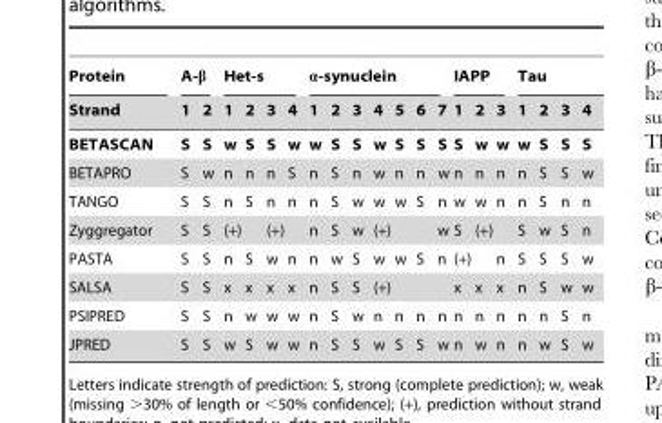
<table><thead><tr><td rowspan="2">Protein Strand</td><td colspan="2">A-β</td><td colspan="4">Het-s</td><td colspan="7">α-synuclein</td><td colspan="3">IAPP</td><td colspan="4">Tau</td></tr><tr><td>1</td><td>2</td><td>1</td><td>2</td><td>3</td><td>4</td><td>1</td><td>2</td><td>3</td><td>4</td><td>5</td><td>6</td><td>7</td><td>1</td><td>2</td><td>3</td><td>1</td><td>2</td><td>3</td><td>4</td></tr></thead><tbody><tr><td>BETASCAN</td><td>S</td><td>S</td><td>w</td><td>S</td><td>S</td><td>w</td><td>w</td><td>S</td><td>S</td><td>w</td><td>S</td><td>S</td><td>S</td><td>S</td><td>w</td><td>w</td><td>w</td><td>S</td><td>S</td><td>S</td></tr><tr><td>BETAPRO</td><td>S</td><td>w</td><td>n</td><td>n</td><td>n</td><td>S</td><td>n</td><td>S</td><td>n</td><td>w</td><td>n</td><td>n</td><td>w</td><td>n</td><td>n</td><td>n</td><td>n</td><td>S</td><td>S</td><td>w</td></tr><tr><td>TANGO</td><td>S</td><td>S</td><td>n</td><td>S</td><td>n</td><td>n</td><td>n</td><td>S</td><td>w</td><td>w</td><td>w</td><td>S</td><td>n</td><td>w</td><td>w</td><td>n</td><td>n</td><td>S</td><td>n</td><td>n</td></tr><tr><td>Zyggregator</td><td>S</td><td>S</td><td colspan="2">(+)</td><td colspan="2">(+)</td><td>n</td><td>S</td><td>w</td><td colspan="3">(+)</td><td>w</td><td>S</td><td colspan="2">(+)</td><td>S</td><td>w</td><td>S</td><td>n</td></tr><tr><td>PASTA</td><td>S</td><td>S</td><td>n</td><td>S</td><td>w</td><td>n</td><td>n</td><td>w</td><td>S</td><td>w</td><td>w</td><td>S</td><td>n</td><td colspan="2">(+)</td><td>n</td><td>S</td><td>S</td><td>S</td><td>w</td></tr><tr><td>SALSA</td><td>S</td><td>S</td><td>x</td><td>x</td><td>x</td><td>x</td><td>n</td><td>S</td><td>S</td><td colspan="4">(+)</td><td>x</td><td>x</td><td>x</td><td>n</td><td>S</td><td>w</td><td>w</td></tr><tr><td>PSIPRED</td><td>S</td><td>S</td><td>n</td><td>w</td><td>w</td><td>w</td><td>n</td><td>S</td><td>w</td><td>n</td><td>n</td><td>n</td><td>n</td><td>n</td><td>n</td><td>n</td><td>n</td><td>n</td><td>S</td><td>n</td></tr><tr><td>JPRED</td><td>S</td><td>S</td><td>w</td><td>S</td><td>w</td><td>w</td><td>n</td><td>S</td><td>S</td><td>w</td><td>S</td><td>S</td><td>w</td><td>n</td><td>w</td><td>n</td><td>n</td><td>w</td><td>S</td><td>w</td></tr></tbody></table>